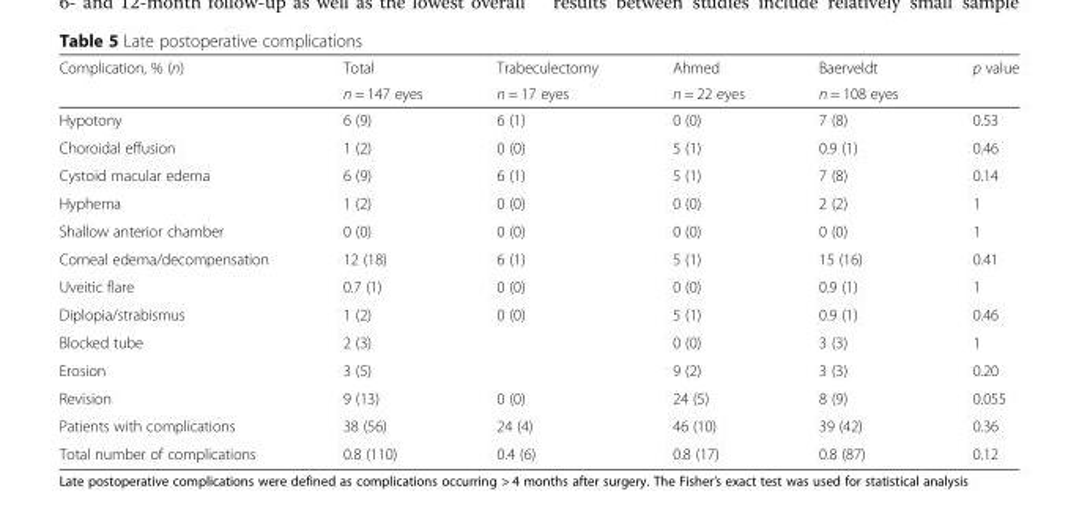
<table><thead><tr><td rowspan="2">Complication, % (n)</td><td rowspan="2">Total n = 147 eyes</td><td rowspan="2">Trabeculectomy n = 17 eyes</td><td rowspan="2">Ahmed n = 22 eyes</td><td rowspan="2">Baerveldt n = 108 eyes</td><td rowspan="2">p value</td></tr><tr></tr></thead><tbody><tr><td>Hypotony</td><td>6 (9)</td><td>6 (1)</td><td>0 (0)</td><td>7 (8)</td><td>0.53</td></tr><tr><td>Choroidal effusion</td><td>1 (2)</td><td>0 (0)</td><td>5 (1)</td><td>0.9 (1)</td><td>0.46</td></tr><tr><td>Cystoid macular edema</td><td>6 (9)</td><td>6 (1)</td><td>5 (1)</td><td>7 (8)</td><td>0.14</td></tr><tr><td>Hyphema</td><td>1 (2)</td><td>0 (0)</td><td>0 (0)</td><td>2 (2)</td><td>1</td></tr><tr><td>Shallow anterior chamber</td><td>0 (0)</td><td>0 (0)</td><td>0 (0)</td><td>0 (0)</td><td>1</td></tr><tr><td>Corneal edema/decompensation</td><td>12 (18)</td><td>6 (1)</td><td>5 (1)</td><td>15 (16)</td><td>0.41</td></tr><tr><td>Uveitic flare</td><td>0.7 (1)</td><td>0 (0)</td><td>0 (0)</td><td>0.9 (1)</td><td>1</td></tr><tr><td>Diplopia/strabismus</td><td>1 (2)</td><td>0 (0)</td><td>5 (1)</td><td>0.9 (1)</td><td>0.46</td></tr><tr><td>Blocked tube</td><td>2 (3)</td><td></td><td>0 (0)</td><td>3 (3)</td><td>1</td></tr><tr><td>Erosion</td><td>3 (5)</td><td></td><td>9 (2)</td><td>3 (3)</td><td>0.20</td></tr><tr><td>Revision</td><td>9 (13)</td><td>0 (0)</td><td>24 (5)</td><td>8 (9)</td><td>0.055</td></tr><tr><td>Patients with complications</td><td>38 (56)</td><td>24 (4)</td><td>46 (10)</td><td>39 (42)</td><td>0.36</td></tr><tr><td>Total number of complications</td><td>0.8 (110)</td><td>0.4 (6)</td><td>0.8 (17)</td><td>0.8 (87)</td><td>0.12</td></tr></tbody></table>